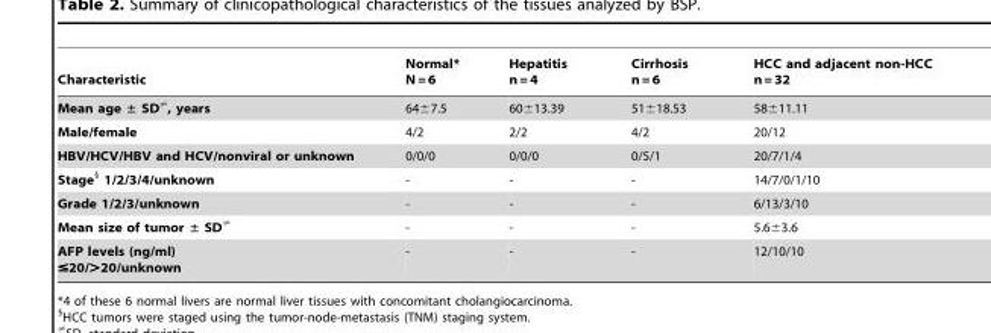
<table><thead><tr><td>Characteristic</td><td>Normal* N = 6</td><td>Hepatitis n = 4</td><td>Cirrhosis n = 6</td><td>HCC and adjacent non-HCC n = 32</td></tr></thead><tbody><tr><td>Mean age ± SD≠, years</td><td>64±7.5</td><td>60±13.39</td><td>51±18.53</td><td>58±11.11</td></tr><tr><td>Male/female</td><td>4/2</td><td>2/2</td><td>4/2</td><td>20/12</td></tr><tr><td>HBV/HCV/HBV and HCV/nonviral or unknown</td><td>0/0/0</td><td>0/0/0</td><td>0/5/1</td><td>20/7/1/4</td></tr><tr><td>Stage§ 1/2/3/4/unknown</td><td>-</td><td>-</td><td>-</td><td>14/7/0/1/10</td></tr><tr><td>Grade 1/2/3/unknown</td><td>-</td><td>-</td><td>-</td><td>6/13/3/10</td></tr><tr><td>Mean size of tumor ± SD≠</td><td>-</td><td>-</td><td>-</td><td>5.6±3.6</td></tr><tr><td>AFP levels (ng/ml) ≤20/&gt;20/unknown</td><td>-</td><td>-</td><td>-</td><td>12/10/10</td></tr></tbody></table>